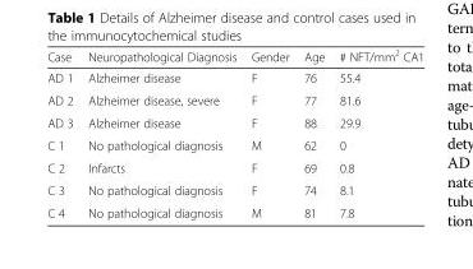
<table><thead><tr><td>Case</td><td>Neuropathological Diagnosis</td><td>Gender</td><td>Age</td><td># NFT/mm<sup>2</sup> CA1</td></tr></thead><tbody><tr><td>AD 1</td><td>Alzheimer disease</td><td>F</td><td>76</td><td>55.4</td></tr><tr><td>AD 2</td><td>Alzheimer disease, severe</td><td>F</td><td>77</td><td>81.6</td></tr><tr><td>AD 3</td><td>Alzheimer disease</td><td>F</td><td>88</td><td>29.9</td></tr><tr><td>C 1</td><td>No pathological diagnosis</td><td>M</td><td>62</td><td>0</td></tr><tr><td>C 2</td><td>Infarcts</td><td>F</td><td>69</td><td>0.8</td></tr><tr><td>C 3</td><td>No pathological diagnosis</td><td>F</td><td>74</td><td>8.1</td></tr><tr><td>C 4</td><td>No pathological diagnosis</td><td>M</td><td>81</td><td>7.8</td></tr></tbody></table>